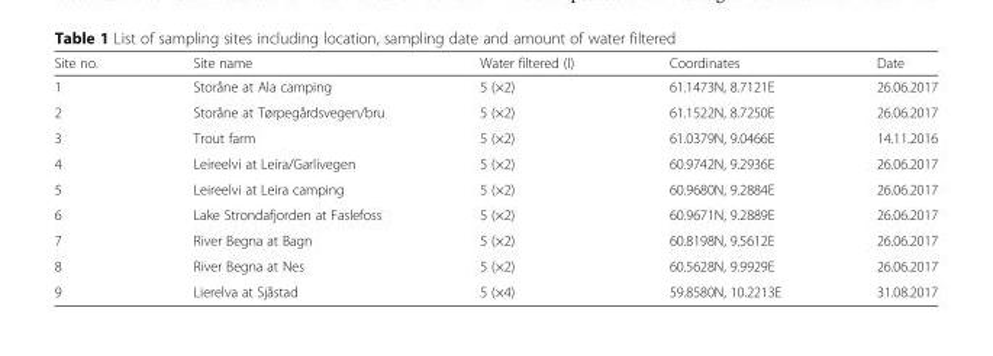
<table><thead><tr><td>Site no.</td><td>Site name</td><td>Water filtered (l)</td><td>Coordinates</td><td>Date</td></tr></thead><tbody><tr><td>1</td><td>Storåne at Ala camping</td><td>5 (×2)</td><td>61.1473N, 8.7121E</td><td>26.06.2017</td></tr><tr><td>2</td><td>Storåne at Tørpegårdsvegen/bru</td><td>5 (×2)</td><td>61.1522N, 8.7250E</td><td>26.06.2017</td></tr><tr><td>3</td><td>Trout farm</td><td>5 (×2)</td><td>61.0379N, 9.0466E</td><td>14.11.2016</td></tr><tr><td>4</td><td>Leireelvi at Leira/Garlivegen</td><td>5 (×2)</td><td>60.9742N, 9.2936E</td><td>26.06.2017</td></tr><tr><td>5</td><td>Leireelvi at Leira camping</td><td>5 (×2)</td><td>60.9680N, 9.2884E</td><td>26.06.2017</td></tr><tr><td>6</td><td>Lake Strondafjorden at Faslefoss</td><td>5 (×2)</td><td>60.9671N, 9.2889E</td><td>26.06.2017</td></tr><tr><td>7</td><td>River Begna at Bagn</td><td>5 (×2)</td><td>60.8198N, 9.5612E</td><td>26.06.2017</td></tr><tr><td>8</td><td>River Begna at Nes</td><td>5 (×2)</td><td>60.5628N, 9.9929E</td><td>26.06.2017</td></tr><tr><td>9</td><td>Lierelva at Sjåstad</td><td>5 (×4)</td><td>59.8580N, 10.2213E</td><td>31.08.2017</td></tr></tbody></table>